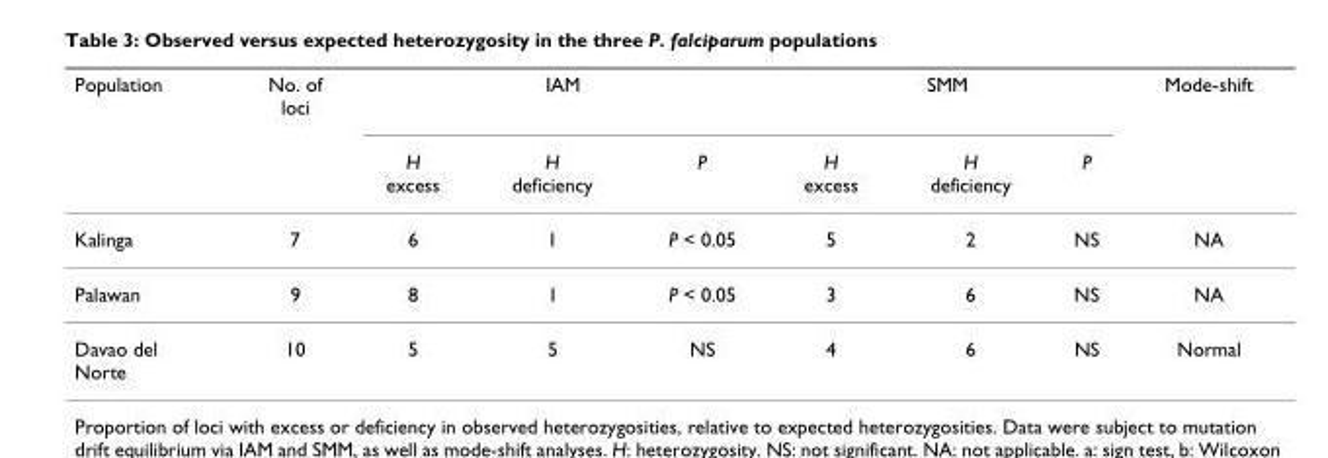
<table><thead><tr><td rowspan="2">Population</td><td rowspan="2">No. of loci</td><td colspan="3">IAM</td><td colspan="3">SMM</td><td rowspan="2">Mode-shift</td></tr><tr><td>H excess</td><td>H deficiency</td><td>P</td><td>H excess</td><td>H deficiency</td><td>P</td></tr></thead><tbody><tr><td>Kalinga</td><td>7</td><td>6</td><td>1</td><td>P &lt; 0.05</td><td>5</td><td>2</td><td>NS</td><td>NA</td></tr><tr><td>Palawan</td><td>9</td><td>8</td><td>1</td><td>P &lt; 0.05</td><td>3</td><td>6</td><td>NS</td><td>NA</td></tr><tr><td>Davao del Norte</td><td>10</td><td>5</td><td>5</td><td>NS</td><td>4</td><td>6</td><td>NS</td><td>Normal</td></tr></tbody></table>